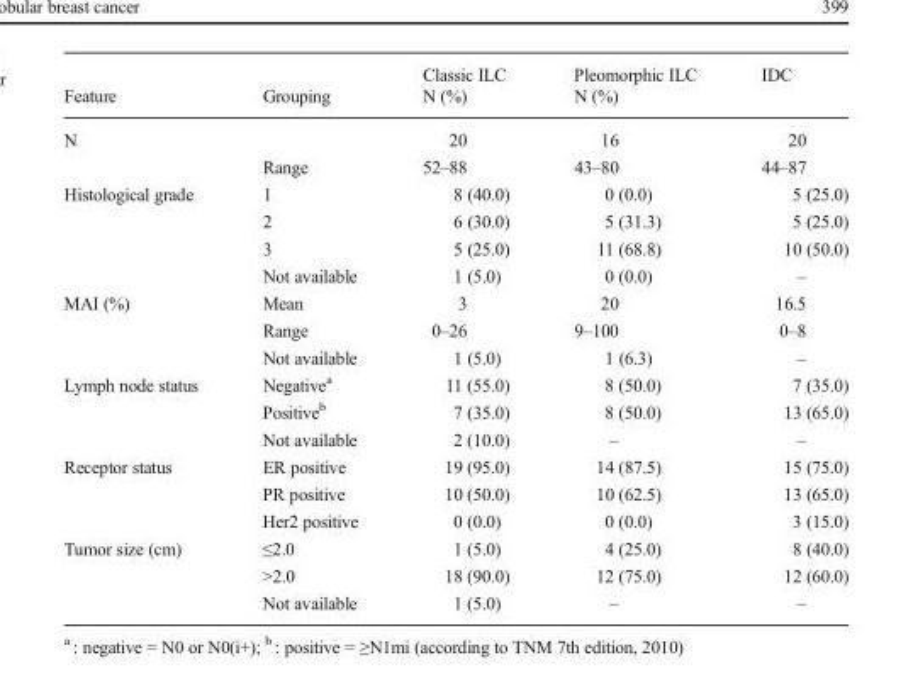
<table><thead><tr><td rowspan="2">Feature</td><td rowspan="2">Grouping</td><td rowspan="2">Classic ILC N (%)</td><td rowspan="2">Pleomorphic ILC N (%)</td><td rowspan="2">IDC</td></tr><tr></tr></thead><tbody><tr><td rowspan="2">N</td><td></td><td>20</td><td>16</td><td>20</td></tr><tr><td>Range</td><td>52–88</td><td>43–80</td><td>44–87</td></tr><tr><td rowspan="4">Histological grade</td><td>1</td><td>8 (40.0)</td><td>0 (0.0)</td><td>5 (25.0)</td></tr><tr><td>2</td><td>6 (30.0)</td><td>5 (31.3)</td><td>5 (25.0)</td></tr><tr><td>3</td><td>5 (25.0)</td><td>11 (68.8)</td><td>10 (50.0)</td></tr><tr><td>Not available</td><td>1 (5.0)</td><td>0 (0.0)</td><td>–</td></tr><tr><td rowspan="3">MAI (%)</td><td>Mean</td><td>3</td><td>20</td><td>16.5</td></tr><tr><td>Range</td><td>0–26</td><td>9–100</td><td>0–8</td></tr><tr><td>Not available</td><td>1 (5.0)</td><td>1 (6.3)</td><td>–</td></tr><tr><td rowspan="3">Lymph node status</td><td>Negative<sup>a</sup></td><td>11 (55.0)</td><td>8 (50.0)</td><td>7 (35.0)</td></tr><tr><td>Positive<sup>b</sup></td><td>7 (35.0)</td><td>8 (50.0)</td><td>13 (65.0)</td></tr><tr><td>Not available</td><td>2 (10.0)</td><td>–</td><td>–</td></tr><tr><td rowspan="3">Receptor status</td><td>ER positive</td><td>19 (95.0)</td><td>14 (87.5)</td><td>15 (75.0)</td></tr><tr><td>PR positive</td><td>10 (50.0)</td><td>10 (62.5)</td><td>13 (65.0)</td></tr><tr><td>Her2 positive</td><td>0 (0.0)</td><td>0 (0.0)</td><td>3 (15.0)</td></tr><tr><td rowspan="3">Tumor size (cm)</td><td>≤2.0</td><td>1 (5.0)</td><td>4 (25.0)</td><td>8 (40.0)</td></tr><tr><td>&gt;2.0</td><td>18 (90.0)</td><td>12 (75.0)</td><td>12 (60.0)</td></tr><tr><td>Not available</td><td>1 (5.0)</td><td>–</td><td>–</td></tr></tbody></table>